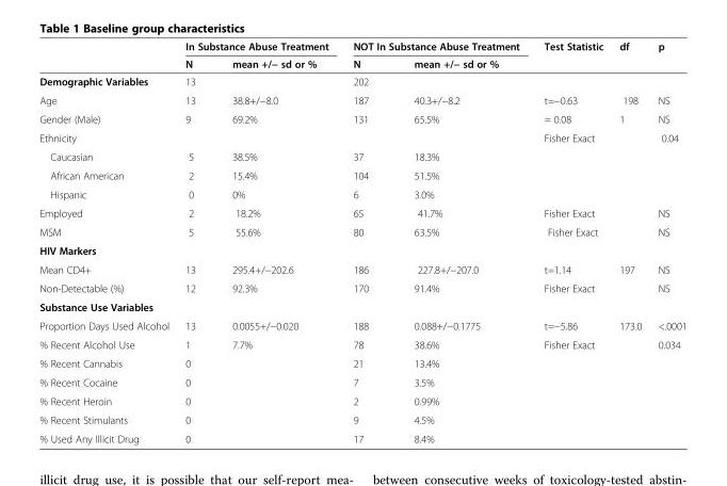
<table><thead><tr><td rowspan="2"></td><td colspan="2">In Substance Abuse Treatment</td><td colspan="2">NOT In Substance Abuse Treatment</td><td rowspan="2">Test Statistic</td><td rowspan="2">df</td><td rowspan="2">p</td></tr><tr><td>N</td><td>mean +/− sd or %</td><td>N</td><td>mean +/− sd or %</td></tr></thead><tbody><tr><td>Demographic Variables</td><td>13</td><td></td><td>202</td><td></td><td></td><td></td><td></td></tr><tr><td>Age</td><td>13</td><td>38.8+/−8.0</td><td>187</td><td>40.3+/−8.2</td><td>t=−0.63</td><td>198</td><td>NS</td></tr><tr><td>Gender (Male)</td><td>9</td><td>69.2%</td><td>131</td><td>65.5%</td><td>= 0.08</td><td>1</td><td>NS</td></tr><tr><td colspan="5">Ethnicity</td><td rowspan="4" colspan="2">Fisher Exact</td><td rowspan="4">0.04</td></tr><tr><td>Caucasian</td><td>5</td><td>38.5%</td><td>37</td><td>18.3%</td></tr><tr><td>African American</td><td>2</td><td>15.4%</td><td>104</td><td>51.5%</td></tr><tr><td>Hispanic</td><td>0</td><td>0%</td><td>6</td><td>3.0%</td></tr><tr><td>Employed</td><td>2</td><td>18.2%</td><td>65</td><td>41.7%</td><td colspan="2">Fisher Exact</td><td>NS</td></tr><tr><td>MSM</td><td>5</td><td>55.6%</td><td>80</td><td>63.5%</td><td colspan="2">Fisher Exact</td><td>NS</td></tr><tr><td colspan="8">HIV Markers</td></tr><tr><td>Mean CD4+</td><td>13</td><td>295.4+/−202.6</td><td>186</td><td>227.8+/−207.0</td><td>t=1.14</td><td>197</td><td>NS</td></tr><tr><td>Non-Detectable (%)</td><td>12</td><td>92.3%</td><td>170</td><td>91.4%</td><td colspan="2">Fisher Exact</td><td>NS</td></tr><tr><td colspan="8">Substance Use Variables</td></tr><tr><td>Proportion Days Used Alcohol</td><td>13</td><td>0.0055+/−0.020</td><td>188</td><td>0.088+/−0.1775</td><td>t=−5.86</td><td>173.0</td><td>&lt;.0001</td></tr><tr><td>% Recent Alcohol Use</td><td>1</td><td>7.7%</td><td>78</td><td>38.6%</td><td colspan="2">Fisher Exact</td><td>0.034</td></tr><tr><td>% Recent Cannabis</td><td>0</td><td></td><td>21</td><td>13.4%</td><td></td><td></td><td></td></tr><tr><td>% Recent Cocaine</td><td>0</td><td></td><td>7</td><td>3.5%</td><td></td><td></td><td></td></tr><tr><td>% Recent Heroin</td><td>0</td><td></td><td>2</td><td>0.99%</td><td></td><td></td><td></td></tr><tr><td>% Recent Stimulants</td><td>0</td><td></td><td>9</td><td>4.5%</td><td></td><td></td><td></td></tr><tr><td>% Used Any Illicit Drug</td><td>0</td><td></td><td>17</td><td>8.4%</td><td></td><td></td><td></td></tr></tbody></table>